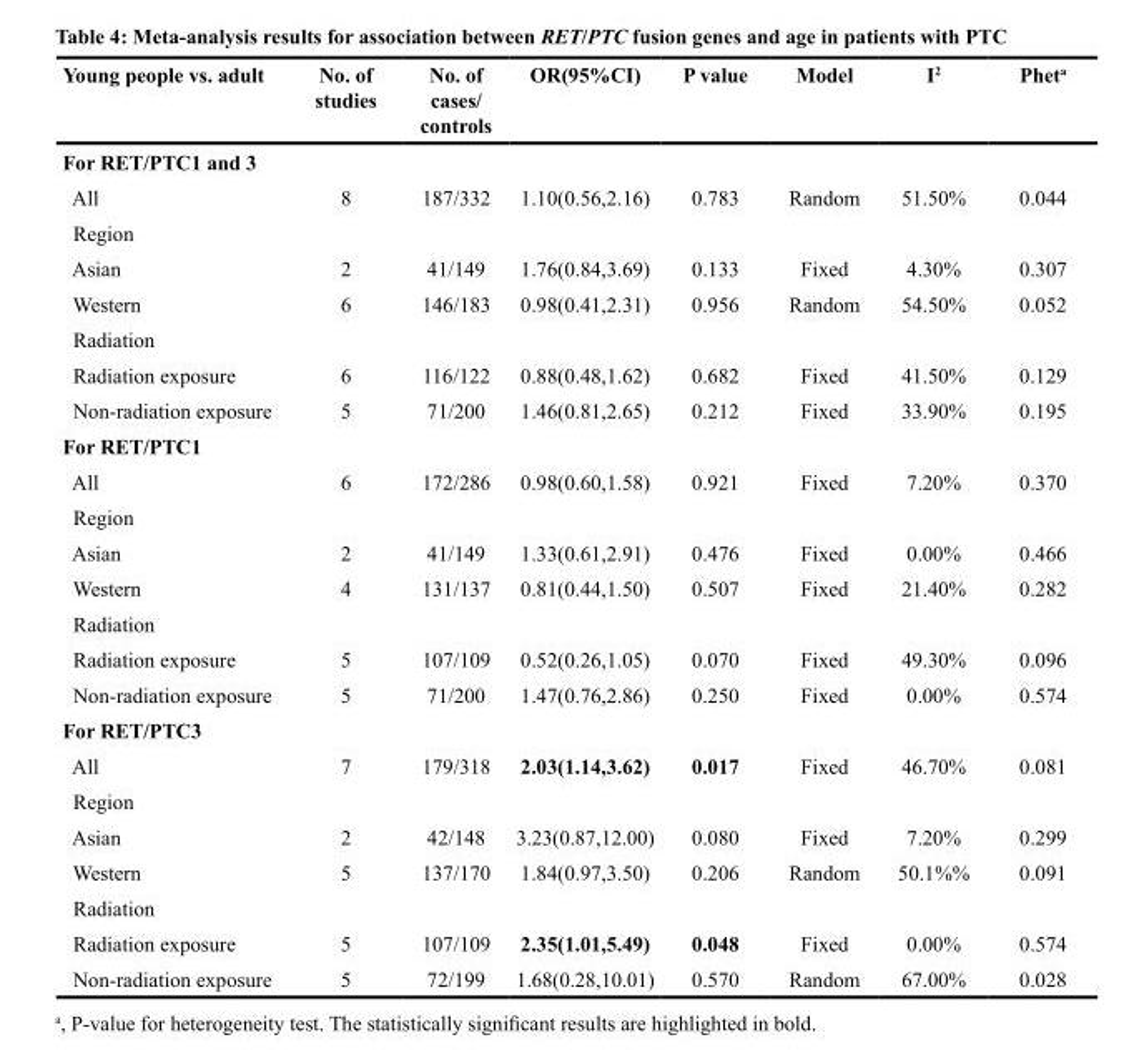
<table><thead><tr><td>Young people vs. adult</td><td>No. of studies</td><td>No. of cases/ controls</td><td>OR(95%CI)</td><td>P value</td><td>Model</td><td>I<sup>2</sup></td><td>Phet<sup>a</sup></td></tr></thead><tbody><tr><td colspan="8">For RET/PTC1 and 3</td></tr><tr><td>All</td><td>8</td><td>187/332</td><td>1.10(0.56,2.16)</td><td>0.783</td><td>Random</td><td>51.50%</td><td>0.044</td></tr><tr><td colspan="8">Region</td></tr><tr><td>Asian</td><td>2</td><td>41/149</td><td>1.76(0.84,3.69)</td><td>0.133</td><td>Fixed</td><td>4.30%</td><td>0.307</td></tr><tr><td>Western</td><td>6</td><td>146/183</td><td>0.98(0.41,2.31)</td><td>0.956</td><td>Random</td><td>54.50%</td><td>0.052</td></tr><tr><td colspan="8">Radiation</td></tr><tr><td>Radiation exposure</td><td>6</td><td>116/122</td><td>0.88(0.48,1.62)</td><td>0.682</td><td>Fixed</td><td>41.50%</td><td>0.129</td></tr><tr><td>Non-radiation exposure</td><td>5</td><td>71/200</td><td>1.46(0.81,2.65)</td><td>0.212</td><td>Fixed</td><td>33.90%</td><td>0.195</td></tr><tr><td colspan="8">For RET/PTC1</td></tr><tr><td>All</td><td>6</td><td>172/286</td><td>0.98(0.60,1.58)</td><td>0.921</td><td>Fixed</td><td>7.20%</td><td>0.370</td></tr><tr><td colspan="8">Region</td></tr><tr><td>Asian</td><td>2</td><td>41/149</td><td>1.33(0.61,2.91)</td><td>0.476</td><td>Fixed</td><td>0.00%</td><td>0.466</td></tr><tr><td>Western</td><td>4</td><td>131/137</td><td>0.81(0.44,1.50)</td><td>0.507</td><td>Fixed</td><td>21.40%</td><td>0.282</td></tr><tr><td colspan="8">Radiation</td></tr><tr><td>Radiation exposure</td><td>5</td><td>107/109</td><td>0.52(0.26,1.05)</td><td>0.070</td><td>Fixed</td><td>49.30%</td><td>0.096</td></tr><tr><td>Non-radiation exposure</td><td>5</td><td>71/200</td><td>1.47(0.76,2.86)</td><td>0.250</td><td>Fixed</td><td>0.00%</td><td>0.574</td></tr><tr><td colspan="8">For RET/PTC3</td></tr><tr><td>All</td><td>7</td><td>179/318</td><td>2.03(1.14,3.62)</td><td>0.017</td><td>Fixed</td><td>46.70%</td><td>0.081</td></tr><tr><td colspan="8">Region</td></tr><tr><td>Asian</td><td>2</td><td>42/148</td><td>3.23(0.87,12.00)</td><td>0.080</td><td>Fixed</td><td>7.20%</td><td>0.299</td></tr><tr><td>Western</td><td>5</td><td>137/170</td><td>1.84(0.97,3.50)</td><td>0.206</td><td>Random</td><td>50.1%%</td><td>0.091</td></tr><tr><td colspan="8">Radiation</td></tr><tr><td>Radiation exposure</td><td>5</td><td>107/109</td><td>2.35(1.01,5.49)</td><td>0.048</td><td>Fixed</td><td>0.00%</td><td>0.574</td></tr><tr><td>Non-radiation exposure</td><td>5</td><td>72/199</td><td>1.68(0.28,10.01)</td><td>0.570</td><td>Random</td><td>67.00%</td><td>0.028</td></tr></tbody></table>